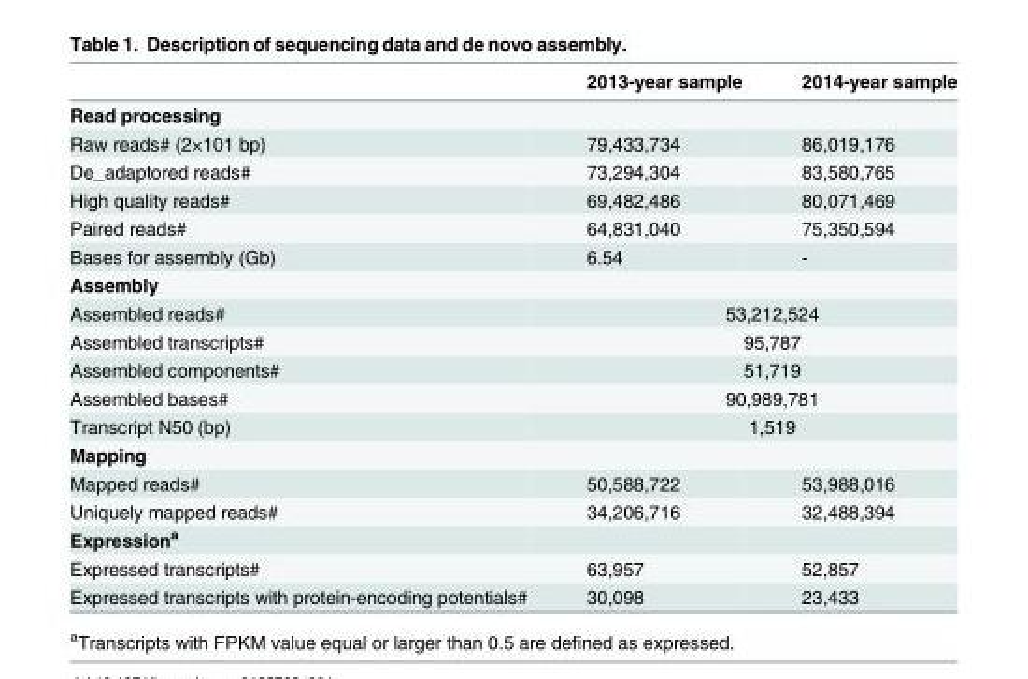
<table><thead><tr><td></td><td>2013-year sample</td><td>2014-year sample</td></tr></thead><tbody><tr><td colspan="3">Read processing</td></tr><tr><td>Raw reads# (2×101 bp)</td><td>79,433,734</td><td>86,019,176</td></tr><tr><td>De_adaptored reads#</td><td>73,294,304</td><td>83,580,765</td></tr><tr><td>High quality reads#</td><td>69,482,486</td><td>80,071,469</td></tr><tr><td>Paired reads#</td><td>64,831,040</td><td>75,350,594</td></tr><tr><td>Bases for assembly (Gb)</td><td>6.54</td><td>-</td></tr><tr><td colspan="3">Assembly</td></tr><tr><td>Assembled reads#</td><td colspan="2">53,212,524</td></tr><tr><td>Assembled transcripts#</td><td colspan="2">95,787</td></tr><tr><td>Assembled components#</td><td colspan="2">51,719</td></tr><tr><td>Assembled bases#</td><td colspan="2">90,989,781</td></tr><tr><td>Transcript N50 (bp)</td><td colspan="2">1,519</td></tr><tr><td colspan="3">Mapping</td></tr><tr><td>Mapped reads#</td><td>50,588,722</td><td>53,988,016</td></tr><tr><td>Uniquely mapped reads#</td><td>34,206,716</td><td>32,488,394</td></tr><tr><td colspan="3">Expression<sup>a</sup></td></tr><tr><td>Expressed transcripts#</td><td>63,957</td><td>52,857</td></tr><tr><td>Expressed transcripts with protein-encoding potentials#</td><td>30,098</td><td>23,433</td></tr></tbody></table>